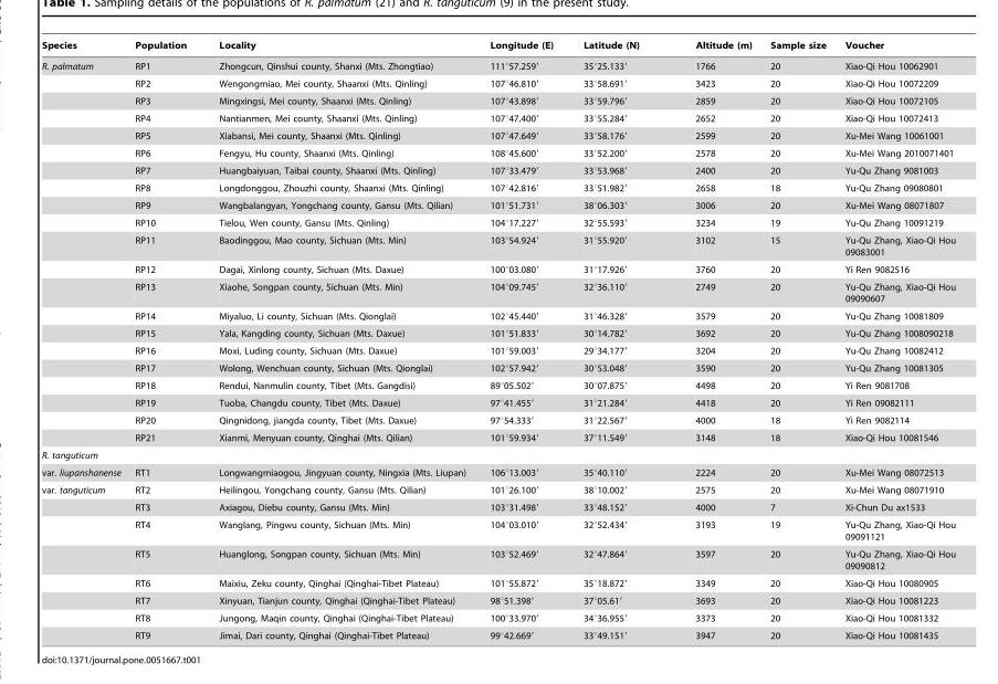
<table><thead><tr><td>Species</td><td>Population</td><td>Locality</td><td>Longitude (E)</td><td>Latitude (N)</td><td>Altitude (m)</td><td>Sample size</td><td>Voucher</td></tr></thead><tbody><tr><td rowspan="21">R. palmatum</td><td>RP1</td><td>Zhongcun, Qinshui county, Shanxi (Mts. Zhongtiao)</td><td>111°57.259′</td><td>35°25.133′</td><td>1766</td><td>20</td><td>Xiao-Qi Hou 10062901</td></tr><tr><td>RP2</td><td>Wengongmiao, Mei county, Shaanxi (Mts. Qinling)</td><td>107°46.810′</td><td>33°58.691′</td><td>3423</td><td>20</td><td>Xiao-Qi Hou 10072209</td></tr><tr><td>RP3</td><td>Mingxingsi, Mei county, Shaanxi (Mts. Qinling)</td><td>107°43.898′</td><td>33°59.796′</td><td>2859</td><td>20</td><td>Xiao-Qi Hou 10072105</td></tr><tr><td>RP4</td><td>Nantianmen, Mei county, Shaanxi (Mts. Qinling)</td><td>107°47.400′</td><td>33°55.284′</td><td>2652</td><td>20</td><td>Xiao-Qi Hou 10072413</td></tr><tr><td>RP5</td><td>Xiabansi, Mei county, Shaanxi (Mts. Qinling)</td><td>107°47.649′</td><td>33°58.176′</td><td>2599</td><td>20</td><td>Xu-Mei Wang 10061001</td></tr><tr><td>RP6</td><td>Fengyu, Hu county, Shaanxi (Mts. Qinling)</td><td>108°45.600′</td><td>33°52.200′</td><td>2578</td><td>20</td><td>Xu-Mei Wang 2010071401</td></tr><tr><td>RP7</td><td>Huangbaiyuan, Taibai county, Shaanxi (Mts. Qinling)</td><td>107°33.479′</td><td>33°53.968′</td><td>2400</td><td>20</td><td>Yu-Qu Zhang 9081003</td></tr><tr><td>RP8</td><td>Longdonggou, Zhouzhi county, Shaanxi (Mts. Qinling)</td><td>107°42.816′</td><td>33°51.982′</td><td>2658</td><td>18</td><td>Yu-Qu Zhang 09080801</td></tr><tr><td>RP9</td><td>Wangbalangyan, Yongchang county, Gansu (Mts. Qilian)</td><td>101°51.731′</td><td>38°06.303′</td><td>3006</td><td>20</td><td>Xu-Mei Wang 08071807</td></tr><tr><td>RP10</td><td>Tielou, Wen county, Gansu (Mts. Qinling)</td><td>104°17.227′</td><td>32°55.593′</td><td>3234</td><td>19</td><td>Yu-Qu Zhang 10091219</td></tr><tr><td>RP11</td><td>Baodinggou, Mao county, Sichuan (Mts. Min)</td><td>103°54.924′</td><td>31°55.920′</td><td>3102</td><td>15</td><td>Yu-Qu Zhang, Xiao-Qi Hou 09083001</td></tr><tr><td>RP12</td><td>Dagai, Xinlong county, Sichuan (Mts. Daxue)</td><td>100°03.080′</td><td>31°17.926′</td><td>3760</td><td>20</td><td>Yi Ren 9082516</td></tr><tr><td>RP13</td><td>Xiaohe, Songpan county, Sichuan (Mts. Min)</td><td>104°09.745′</td><td>32°36.110′</td><td>2749</td><td>20</td><td>Yu-Qu Zhang, Xiao-Qi Hou 09090607</td></tr><tr><td>RP14</td><td>Miyaluo, Li county, Sichuan (Mts. Qionglai)</td><td>102°45.440′</td><td>31°46.328′</td><td>3579</td><td>20</td><td>Yu-Qu Zhang 10081809</td></tr><tr><td>RP15</td><td>Yala, Kangding county, Sichuan (Mts. Daxue)</td><td>101°51.833′</td><td>30°14.782′</td><td>3692</td><td>20</td><td>Yu-Qu Zhang 1008090218</td></tr><tr><td>RP16</td><td>Moxi, Luding county, Sichuan (Mts. Daxue)</td><td>101°59.003′</td><td>29°34.177′</td><td>3204</td><td>20</td><td>Yu-Qu Zhang 10082412</td></tr><tr><td>RP17</td><td>Wolong, Wenchuan county, Sichuan (Mts. Qionglai)</td><td>102°57.942′</td><td>30°53.048′</td><td>3590</td><td>20</td><td>Yu-Qu Zhang 10081305</td></tr><tr><td>RP18</td><td>Rendui, Nanmulin county, Tibet (Mts. Gangdisi)</td><td>89°05.502′</td><td>30°07.875′</td><td>4498</td><td>20</td><td>Yi Ren 9081708</td></tr><tr><td>RP19</td><td>Tuoba, Changdu county, Tibet (Mts. Daxue)</td><td>97°41.455′</td><td>31°21.284′</td><td>4418</td><td>20</td><td>Yi Ren 09082111</td></tr><tr><td>RP20</td><td>Qingnidong, jiangda county, Tibet (Mts. Daxue)</td><td>97°54.333′</td><td>31°22.567′</td><td>4000</td><td>18</td><td>Yi Ren 9082114</td></tr><tr><td>RP21</td><td>Xianmi, Menyuan county, Qinghai (Mts. Qilian)</td><td>101°59.934′</td><td>37°11.549′</td><td>3148</td><td>18</td><td>Xiao-Qi Hou 10081546</td></tr><tr><td colspan="8">R. tanguticum</td></tr><tr><td>var. liupanshanense</td><td>RT1</td><td>Longwangmiaogou, Jingyuan county, Ningxia (Mts. Liupan)</td><td>106°13.003′</td><td>35°40.110′</td><td>2224</td><td>20</td><td>Xu-Mei Wang 08072513</td></tr><tr><td rowspan="8">var. tanguticum</td><td>RT2</td><td>Heilingou, Yongchang county, Gansu (Mts. Qilian)</td><td>101°26.100′</td><td>38°10.002′</td><td>2575</td><td>20</td><td>Xu-Mei Wang 08071910</td></tr><tr><td>RT3</td><td>Axiagou, Diebu county, Gansu (Mts. Min)</td><td>103°31.498′</td><td>33°48.152′</td><td>4000</td><td>7</td><td>Xi-Chun Du ax1533</td></tr><tr><td>RT4</td><td>Wanglang, Pingwu county, Sichuan (Mts. Min)</td><td>104°03.010′</td><td>32°52.434′</td><td>3193</td><td>19</td><td>Yu-Qu Zhang, Xiao-Qi Hou 09091121</td></tr><tr><td>RT5</td><td>Huanglong, Songpan county, Sichuan (Mts. Min)</td><td>103°52.469′</td><td>32°47.864′</td><td>3597</td><td>20</td><td>Yu-Qu Zhang, Xiao-Qi Hou 09090812</td></tr><tr><td>RT6</td><td>Maixiu, Zeku county, Qinghai (Qinghai-Tibet Plateau)</td><td>101°55.872′</td><td>35°18.872′</td><td>3349</td><td>20</td><td>Xiao-Qi Hou 10080905</td></tr><tr><td>RT7</td><td>Xinyuan, Tianjun county, Qinghai (Qinghai-Tibet Plateau)</td><td>98°51.398′</td><td>37°05.61′</td><td>3693</td><td>20</td><td>Xiao-Qi Hou 10081223</td></tr><tr><td>RT8</td><td>Jungong, Maqin county, Qinghai (Qinghai-Tibet Plateau)</td><td>100°33.970′</td><td>34°36.955′</td><td>3373</td><td>20</td><td>Xiao-Qi Hou 10081332</td></tr><tr><td>RT9</td><td>Jimai, Dari county, Qinghai (Qinghai-Tibet Plateau)</td><td>99°42.669′</td><td>33°49.151′</td><td>3947</td><td>20</td><td>Xiao-Qi Hou 10081435</td></tr></tbody></table>